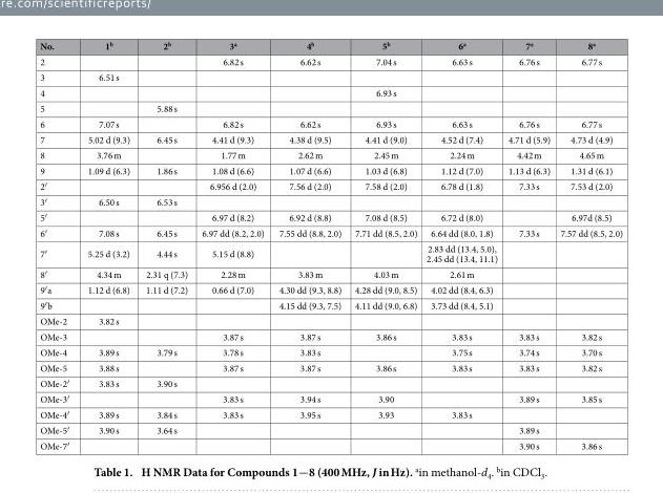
<table><thead><tr><td>No.</td><td>1<sup>b</sup></td><td>2<sup>b</sup></td><td>3<sup>a</sup></td><td>4<sup>b</sup></td><td>5<sup>b</sup></td><td>6<sup>a</sup></td><td>7<sup>a</sup></td><td>8<sup>a</sup></td></tr></thead><tbody><tr><td>2</td><td></td><td></td><td>6.82 s</td><td>6.62 s</td><td>7.04 s</td><td>6.63 s</td><td>6.76 s</td><td>6.77 s</td></tr><tr><td>3</td><td>6.51 s</td><td></td><td></td><td></td><td></td><td></td><td></td><td></td></tr><tr><td>4</td><td></td><td></td><td></td><td></td><td>6.93 s</td><td></td><td></td><td></td></tr><tr><td>5</td><td></td><td>5.88 s</td><td></td><td></td><td></td><td></td><td></td><td></td></tr><tr><td>6</td><td>7.07 s</td><td></td><td>6.82 s</td><td>6.62 s</td><td>6.93 s</td><td>6.63 s</td><td>6.76 s</td><td>6.77 s</td></tr><tr><td>7</td><td>5.02 d (9.3)</td><td>6.45 s</td><td>4.41 d (9.3)</td><td>4.38 d (9.5)</td><td>4.41 d (9.0)</td><td>4.52 d (7.4)</td><td>4.71 d (5.9)</td><td>4.73 d (4.9)</td></tr><tr><td>8</td><td>3.76 m</td><td></td><td>1.77 m</td><td>2.62 m</td><td>2.45 m</td><td>2.24 m</td><td>4.42 m</td><td>4.65 m</td></tr><tr><td>9</td><td>1.09 d (6.3)</td><td>1.86 s</td><td>1.08 d (6.6)</td><td>1.07 d (6.6)</td><td>1.03 d (6.8)</td><td>1.12 d (7.0)</td><td>1.13 d (6.3)</td><td>1.31 d (6.1)</td></tr><tr><td>2′</td><td></td><td></td><td>6.956 d (2.0)</td><td>7.56 d (2.0)</td><td>7.58 d (2.0)</td><td>6.78 d (1.8)</td><td>7.33 s</td><td>7.53 d (2.0)</td></tr><tr><td>3′</td><td>6.50 s</td><td>6.53 s</td><td></td><td></td><td></td><td></td><td></td><td></td></tr><tr><td>5′</td><td></td><td></td><td>6.97 d (8.2)</td><td>6.92 d (8.8)</td><td>7.08 d (8.5)</td><td>6.72 d (8.0)</td><td></td><td>6.97d (8.5)</td></tr><tr><td>6′</td><td>7.08 s</td><td>6.45 s</td><td>6.97 dd (8.2, 2.0)</td><td>7.55 dd (8.8, 2.0)</td><td>7.71 dd (8.5, 2.0)</td><td>6.64 dd (8.0, 1.8)</td><td>7.33 s</td><td>7.57 dd (8.5, 2.0)</td></tr><tr><td>7′</td><td>5.25 d (3.2)</td><td>4.44 s</td><td>5.15 d (8.8)</td><td></td><td></td><td>2.83 dd (13.4, 5.0), 2.45 dd (13.4, 11.1)</td><td></td><td></td></tr><tr><td>8′</td><td>4.34 m</td><td>2.31 q (7.3)</td><td>2.28 m</td><td>3.83 m</td><td>4.03 m</td><td>2.61 m</td><td></td><td></td></tr><tr><td>9′ a</td><td>1.12 d (6.8)</td><td>1.11 d (7.2)</td><td>0.66 d (7.0)</td><td>4.30 dd (9.3, 8.8)</td><td>4.28 dd (9.0, 8.5)</td><td>4.02 dd (8.4, 6.3)</td><td></td><td></td></tr><tr><td>9′ b</td><td></td><td></td><td></td><td>4.15 dd (9.3, 7.5)</td><td>4.11 dd (9.0, 6.8)</td><td>3.73 dd (8.4, 5.1)</td><td></td><td></td></tr><tr><td>OMe-2</td><td>3.82 s</td><td></td><td></td><td></td><td></td><td></td><td></td><td></td></tr><tr><td>OMe-3</td><td></td><td></td><td>3.87 s</td><td>3.87 s</td><td>3.86 s</td><td>3.83 s</td><td>3.83 s</td><td>3.82 s</td></tr><tr><td>OMe-4</td><td>3.89 s</td><td>3.79 s</td><td>3.78 s</td><td>3.83 s</td><td></td><td>3.75 s</td><td>3.74 s</td><td>3.70 s</td></tr><tr><td>OMe-5</td><td>3.88 s</td><td></td><td>3.87 s</td><td>3.87 s</td><td>3.86 s</td><td>3.83 s</td><td>3.83 s</td><td>3.82 s</td></tr><tr><td>OMe-2′</td><td>3.83 s</td><td>3.90 s</td><td></td><td></td><td></td><td></td><td></td><td></td></tr><tr><td>OMe-3′</td><td></td><td></td><td>3.83 s</td><td>3.94 s</td><td>3.90</td><td></td><td>3.89 s</td><td>3.85 s</td></tr><tr><td>OMe-4′</td><td>3.89 s</td><td>3.84 s</td><td>3.83 s</td><td>3.95 s</td><td>3.93</td><td>3.83 s</td><td></td><td></td></tr><tr><td>OMe-5′</td><td>3.90 s</td><td>3.64 s</td><td></td><td></td><td></td><td></td><td>3.89 s</td><td></td></tr><tr><td>OMe-7′</td><td></td><td></td><td></td><td></td><td></td><td></td><td>3.90 s</td><td>3.86 s</td></tr></tbody></table>